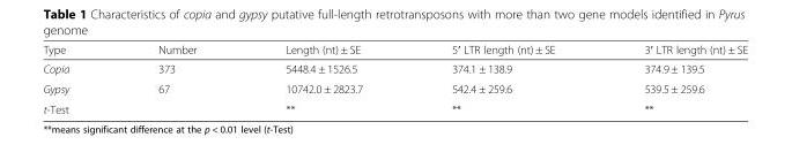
<table><thead><tr><td>Type</td><td>Number</td><td>Length (nt) ± SE</td><td>5′ LTR length (nt) ± SE</td><td>3′ LTR length (nt) ± SE</td></tr></thead><tbody><tr><td>Copia</td><td>373</td><td>5448.4 ± 1526.5</td><td>374.1 ± 138.9</td><td>374.9 ± 139.5</td></tr><tr><td>Gypsy</td><td>67</td><td>10742.0 ± 2823.7</td><td>542.4 ± 259.6</td><td>539.5 ± 259.6</td></tr><tr><td colspan="2">t-Test</td><td>**</td><td>**</td><td>**</td></tr></tbody></table>